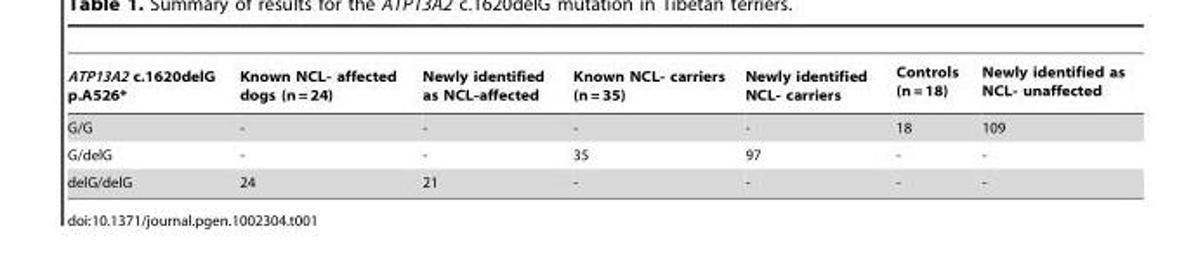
<table><thead><tr><td>ATP13A2 c.1620delG p.A526*</td><td>Known NCL- affected dogs (n = 24)</td><td>Newly identified as NCL-affected</td><td>Known NCL- carriers (n = 35)</td><td>Newly identified NCL- carriers</td><td>Controls (n = 18)</td><td>Newly identified as NCL- unaffected</td></tr></thead><tbody><tr><td>G/G</td><td>-</td><td>-</td><td>-</td><td>-</td><td>18</td><td>109</td></tr><tr><td>G/delG</td><td>-</td><td>-</td><td>35</td><td>97</td><td>-</td><td>-</td></tr><tr><td>delG/delG</td><td>24</td><td>21</td><td>-</td><td>-</td><td>-</td><td>-</td></tr></tbody></table>